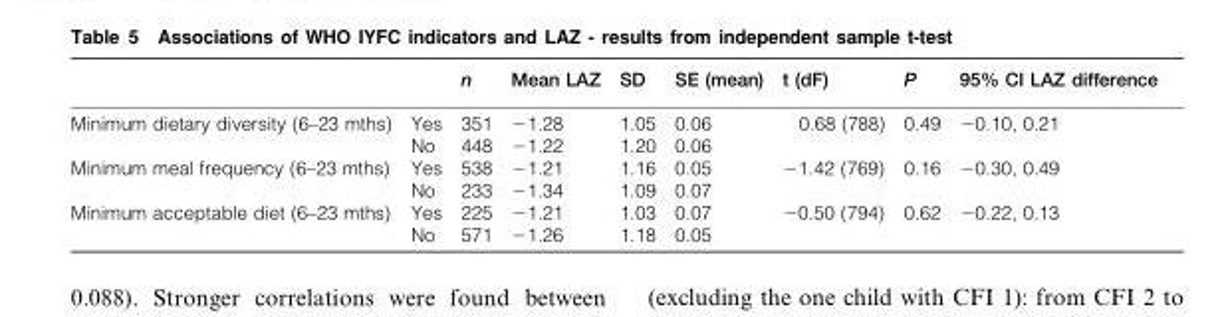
<table><thead><tr><td></td><td></td><td>n</td><td>Mean LAZ</td><td>SD</td><td>SE (mean)</td><td>t (dF)</td><td>P</td><td>95% CI LAZ difference</td></tr></thead><tbody><tr><td rowspan="2">Minimum dietary diversity (6–23 mths)</td><td>Yes</td><td>351</td><td>−1.28</td><td>1.05</td><td>0.06</td><td>0.68 (788)</td><td>0.49</td><td>−0.10, 0.21</td></tr><tr><td>No</td><td>448</td><td>−1.22</td><td>1.20</td><td>0.06</td><td></td><td></td><td></td></tr><tr><td rowspan="2">Minimum meal frequency (6–23 mths)</td><td>Yes</td><td>538</td><td>−1.21</td><td>1.16</td><td>0.05</td><td>−1.42 (769)</td><td>0.16</td><td>−0.30, 0.49</td></tr><tr><td>No</td><td>233</td><td>−1.34</td><td>1.09</td><td>0.07</td><td></td><td></td><td></td></tr><tr><td rowspan="2">Minimum acceptable diet (6–23 mths)</td><td>Yes</td><td>225</td><td>−1.21</td><td>1.03</td><td>0.07</td><td>−0.50 (794)</td><td>0.62</td><td>−0.22, 0.13</td></tr><tr><td>No</td><td>571</td><td>−1.26</td><td>1.18</td><td>0.05</td><td></td><td></td><td></td></tr></tbody></table>